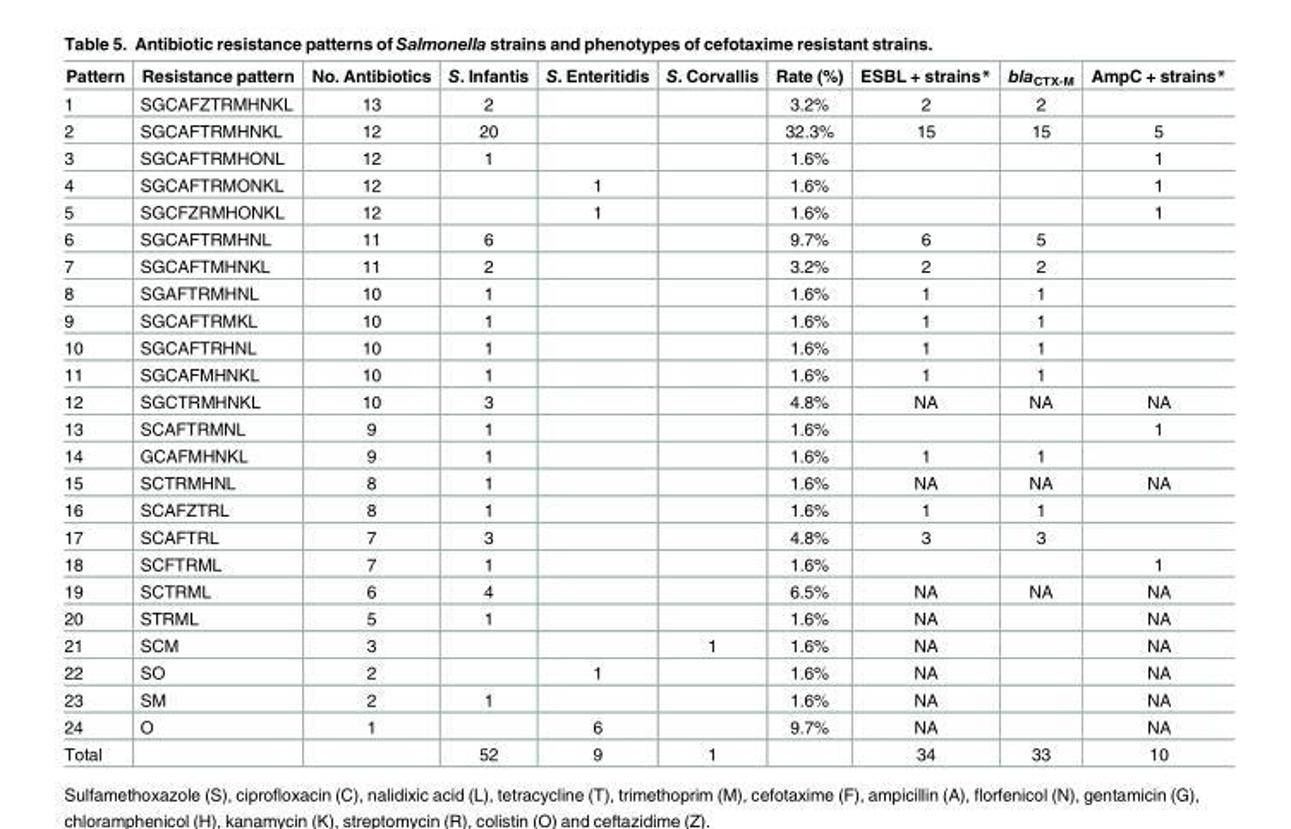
<table><thead><tr><td>Pattern</td><td>Resistance pattern</td><td>No. Antibiotics</td><td>S. Infantis</td><td>S. Enteritidis</td><td>S. Corvallis</td><td>Rate (%)</td><td>ESBL + strains*</td><td>bla<sub>CTX-M</sub></td><td>AmpC + strains*</td></tr></thead><tbody><tr><td>1</td><td>SGCAFZTRMHNKL</td><td>13</td><td>2</td><td></td><td></td><td>3.2%</td><td>2</td><td>2</td><td></td></tr><tr><td>2</td><td>SGCAFTRMHNKL</td><td>12</td><td>20</td><td></td><td></td><td>32.3%</td><td>15</td><td>15</td><td>5</td></tr><tr><td>3</td><td>SGCAFTRMHONL</td><td>12</td><td>1</td><td></td><td></td><td>1.6%</td><td></td><td></td><td>1</td></tr><tr><td>4</td><td>SGCAFTRMONKL</td><td>12</td><td></td><td>1</td><td></td><td>1.6%</td><td></td><td></td><td>1</td></tr><tr><td>5</td><td>SGCFZRMHONKL</td><td>12</td><td></td><td>1</td><td></td><td>1.6%</td><td></td><td></td><td>1</td></tr><tr><td>6</td><td>SGCAFTRMHNL</td><td>11</td><td>6</td><td></td><td></td><td>9.7%</td><td>6</td><td>5</td><td></td></tr><tr><td>7</td><td>SGCAFTMHNKL</td><td>11</td><td>2</td><td></td><td></td><td>3.2%</td><td>2</td><td>2</td><td></td></tr><tr><td>8</td><td>SGAFTRMHNL</td><td>10</td><td>1</td><td></td><td></td><td>1.6%</td><td>1</td><td>1</td><td></td></tr><tr><td>9</td><td>SGCAFTRMKL</td><td>10</td><td>1</td><td></td><td></td><td>1.6%</td><td>1</td><td>1</td><td></td></tr><tr><td>10</td><td>SGCAFTRHNL</td><td>10</td><td>1</td><td></td><td></td><td>1.6%</td><td>1</td><td>1</td><td></td></tr><tr><td>11</td><td>SGCAFMHNKL</td><td>10</td><td>1</td><td></td><td></td><td>1.6%</td><td>1</td><td>1</td><td></td></tr><tr><td>12</td><td>SGCTRMHNKL</td><td>10</td><td>3</td><td></td><td></td><td>4.8%</td><td>NA</td><td>NA</td><td>NA</td></tr><tr><td>13</td><td>SCAFTRMNL</td><td>9</td><td>1</td><td></td><td></td><td>1.6%</td><td></td><td></td><td>1</td></tr><tr><td>14</td><td>GCAFMHNKL</td><td>9</td><td>1</td><td></td><td></td><td>1.6%</td><td>1</td><td>1</td><td></td></tr><tr><td>15</td><td>SCTRMHNL</td><td>8</td><td>1</td><td></td><td></td><td>1.6%</td><td>NA</td><td>NA</td><td>NA</td></tr><tr><td>16</td><td>SCAFZTRL</td><td>8</td><td>1</td><td></td><td></td><td>1.6%</td><td>1</td><td>1</td><td></td></tr><tr><td>17</td><td>SCAFTRL</td><td>7</td><td>3</td><td></td><td></td><td>4.8%</td><td>3</td><td>3</td><td></td></tr><tr><td>18</td><td>SCFTRML</td><td>7</td><td>1</td><td></td><td></td><td>1.6%</td><td></td><td></td><td>1</td></tr><tr><td>19</td><td>SCTRML</td><td>6</td><td>4</td><td></td><td></td><td>6.5%</td><td>NA</td><td>NA</td><td>NA</td></tr><tr><td>20</td><td>STRML</td><td>5</td><td>1</td><td></td><td></td><td>1.6%</td><td>NA</td><td></td><td>NA</td></tr><tr><td>21</td><td>SCM</td><td>3</td><td></td><td></td><td>1</td><td>1.6%</td><td>NA</td><td></td><td>NA</td></tr><tr><td>22</td><td>SO</td><td>2</td><td></td><td>1</td><td></td><td>1.6%</td><td>NA</td><td></td><td>NA</td></tr><tr><td>23</td><td>SM</td><td>2</td><td>1</td><td></td><td></td><td>1.6%</td><td>NA</td><td></td><td>NA</td></tr><tr><td>24</td><td>O</td><td>1</td><td></td><td>6</td><td></td><td>9.7%</td><td>NA</td><td></td><td>NA</td></tr><tr><td>Total</td><td></td><td></td><td>52</td><td>9</td><td>1</td><td></td><td>34</td><td>33</td><td>10</td></tr></tbody></table>